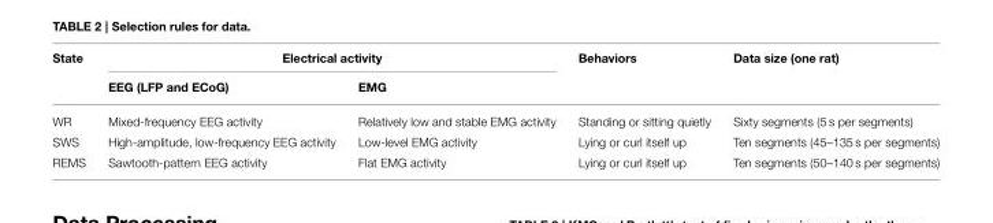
<table><thead><tr><td rowspan="2">State</td><td colspan="2">Electrical activity</td><td rowspan="2">Behaviors</td><td rowspan="2">Data size (one rat)</td></tr><tr><td>EEG (LFP and ECoG)</td><td>EMG</td></tr></thead><tbody><tr><td>WR</td><td>Mixed-frequency EEG activity</td><td>Relatively low and stable EMG activity</td><td>Standing or sitting quietly</td><td>Sixty segments (5 s per segments)</td></tr><tr><td>SWS</td><td>High-amplitude, low-frequency EEG activity</td><td>Low-level EMG activity</td><td>Lying or curl itself up</td><td>Ten segments (45–135 s per segments)</td></tr><tr><td>REMS</td><td>Sawtooth-pattern EEG activity</td><td>Flat EMG activity</td><td>Lying or curl itself up</td><td>Ten segments (50–140 s per segments)</td></tr></tbody></table>